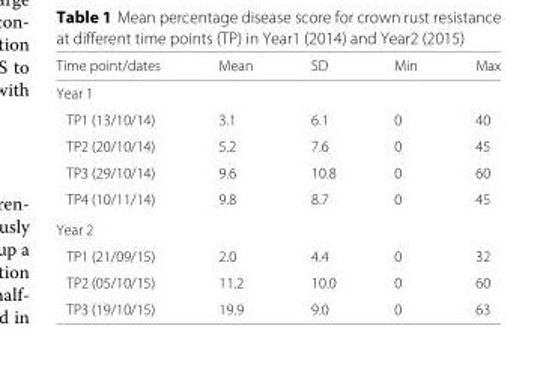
<table><thead><tr><td>Time point/dates</td><td>Mean</td><td>SD</td><td>Min</td><td>Max</td></tr></thead><tbody><tr><td colspan="5">Year 1</td></tr><tr><td>TP1 (13/10/14)</td><td>3.1</td><td>6.1</td><td>0</td><td>40</td></tr><tr><td>TP2 (20/10/14)</td><td>5.2</td><td>7.6</td><td>0</td><td>45</td></tr><tr><td>TP3 (29/10/14)</td><td>9.6</td><td>10.8</td><td>0</td><td>60</td></tr><tr><td>TP4 (10/11/14)</td><td>9.8</td><td>8.7</td><td>0</td><td>45</td></tr><tr><td colspan="5">Year 2</td></tr><tr><td>TP1 (21/09/15)</td><td>2.0</td><td>4.4</td><td>0</td><td>32</td></tr><tr><td>TP2 (05/10/15)</td><td>11.2</td><td>10.0</td><td>0</td><td>60</td></tr><tr><td>TP3 (19/10/15)</td><td>19.9</td><td>9.0</td><td>0</td><td>63</td></tr></tbody></table>